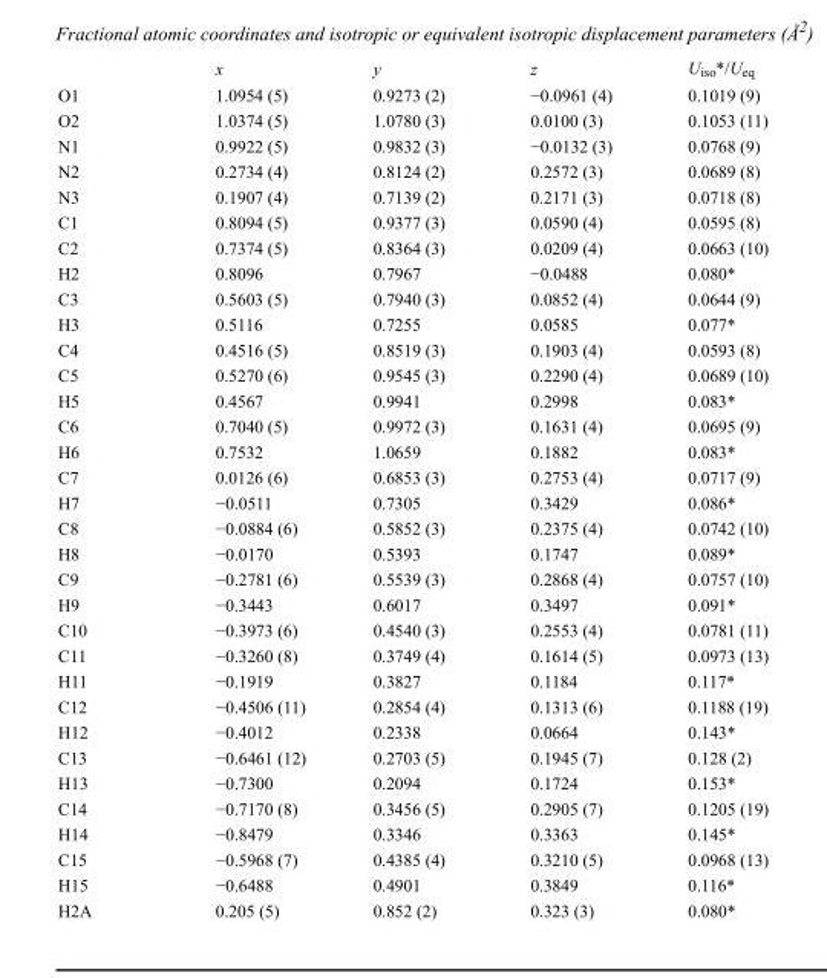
<table><thead><tr><td></td><td>x</td><td>y</td><td>z</td><td>U<sub>iso</sub>*/U<sub>eq</sub></td></tr></thead><tbody><tr><td>O1</td><td>1.0954 (5)</td><td>0.9273 (2)</td><td>−0.0961 (4)</td><td>0.1019 (9)</td></tr><tr><td>O2</td><td>1.0374 (5)</td><td>1.0780 (3)</td><td>0.0100 (3)</td><td>0.1053 (11)</td></tr><tr><td>N1</td><td>0.9922 (5)</td><td>0.9832 (3)</td><td>−0.0132 (3)</td><td>0.0768 (9)</td></tr><tr><td>N2</td><td>0.2734 (4)</td><td>0.8124 (2)</td><td>0.2572 (3)</td><td>0.0689 (8)</td></tr><tr><td>N3</td><td>0.1907 (4)</td><td>0.7139 (2)</td><td>0.2171 (3)</td><td>0.0718 (8)</td></tr><tr><td>C1</td><td>0.8094 (5)</td><td>0.9377 (3)</td><td>0.0590 (4)</td><td>0.0595 (8)</td></tr><tr><td>C2</td><td>0.7374 (5)</td><td>0.8364 (3)</td><td>0.0209 (4)</td><td>0.0663 (10)</td></tr><tr><td>H2</td><td>0.8096</td><td>0.7967</td><td>−0.0488</td><td>0.080*</td></tr><tr><td>C3</td><td>0.5603 (5)</td><td>0.7940 (3)</td><td>0.0852 (4)</td><td>0.0644 (9)</td></tr><tr><td>H3</td><td>0.5116</td><td>0.7255</td><td>0.0585</td><td>0.077*</td></tr><tr><td>C4</td><td>0.4516 (5)</td><td>0.8519 (3)</td><td>0.1903 (4)</td><td>0.0593 (8)</td></tr><tr><td>C5</td><td>0.5270 (6)</td><td>0.9545 (3)</td><td>0.2290 (4)</td><td>0.0689 (10)</td></tr><tr><td>H5</td><td>0.4567</td><td>0.9941</td><td>0.2998</td><td>0.083*</td></tr><tr><td>C6</td><td>0.7040 (5)</td><td>0.9972 (3)</td><td>0.1631 (4)</td><td>0.0695 (9)</td></tr><tr><td>H6</td><td>0.7532</td><td>1.0659</td><td>0.1882</td><td>0.083*</td></tr><tr><td>C7</td><td>0.0126 (6)</td><td>0.6853 (3)</td><td>0.2753 (4)</td><td>0.0717 (9)</td></tr><tr><td>H7</td><td>−0.0511</td><td>0.7305</td><td>0.3429</td><td>0.086*</td></tr><tr><td>C8</td><td>−0.0884 (6)</td><td>0.5852 (3)</td><td>0.2375 (4)</td><td>0.0742 (10)</td></tr><tr><td>H8</td><td>−0.0170</td><td>0.5393</td><td>0.1747</td><td>0.089*</td></tr><tr><td>C9</td><td>−0.2781 (6)</td><td>0.5539 (3)</td><td>0.2868 (4)</td><td>0.0757 (10)</td></tr><tr><td>H9</td><td>−0.3443</td><td>0.6017</td><td>0.3497</td><td>0.091*</td></tr><tr><td>C10</td><td>−0.3973 (6)</td><td>0.4540 (3)</td><td>0.2553 (4)</td><td>0.0781 (11)</td></tr><tr><td>C11</td><td>−0.3260 (8)</td><td>0.3749 (4)</td><td>0.1614 (5)</td><td>0.0973 (13)</td></tr><tr><td>H11</td><td>−0.1919</td><td>0.3827</td><td>0.1184</td><td>0.117*</td></tr><tr><td>C12</td><td>−0.4506 (11)</td><td>0.2854 (4)</td><td>0.1313 (6)</td><td>0.1188 (19)</td></tr><tr><td>H12</td><td>−0.4012</td><td>0.2338</td><td>0.0664</td><td>0.143*</td></tr><tr><td>C13</td><td>−0.6461 (12)</td><td>0.2703 (5)</td><td>0.1945 (7)</td><td>0.128 (2)</td></tr><tr><td>H13</td><td>−0.7300</td><td>0.2094</td><td>0.1724</td><td>0.153*</td></tr><tr><td>C14</td><td>−0.7170 (8)</td><td>0.3456 (5)</td><td>0.2905 (7)</td><td>0.1205 (19)</td></tr><tr><td>H14</td><td>−0.8479</td><td>0.3346</td><td>0.3363</td><td>0.145*</td></tr><tr><td>C15</td><td>−0.5968 (7)</td><td>0.4385 (4)</td><td>0.3210 (5)</td><td>0.0968 (13)</td></tr><tr><td>H15</td><td>−0.6488</td><td>0.4901</td><td>0.3849</td><td>0.116*</td></tr><tr><td>H2A</td><td>0.205 (5)</td><td>0.852 (2)</td><td>0.323 (3)</td><td>0.080*</td></tr></tbody></table>